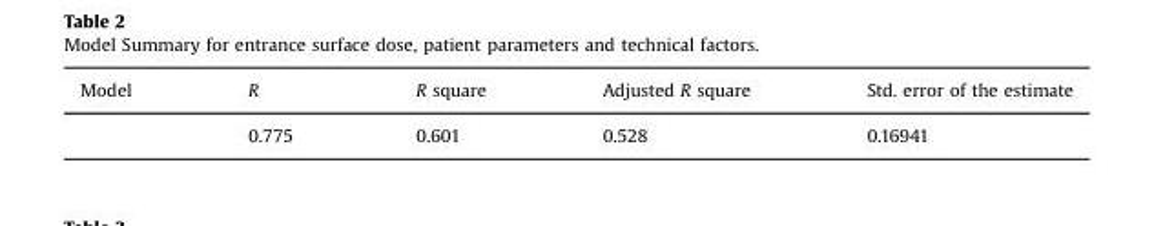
<table><thead><tr><td>Model</td><td>R</td><td>R square</td><td>Adjusted R square</td><td>Std. error of the estimate</td></tr></thead><tbody><tr><td></td><td>0.775</td><td>0.601</td><td>0.528</td><td>0.16941</td></tr></tbody></table>